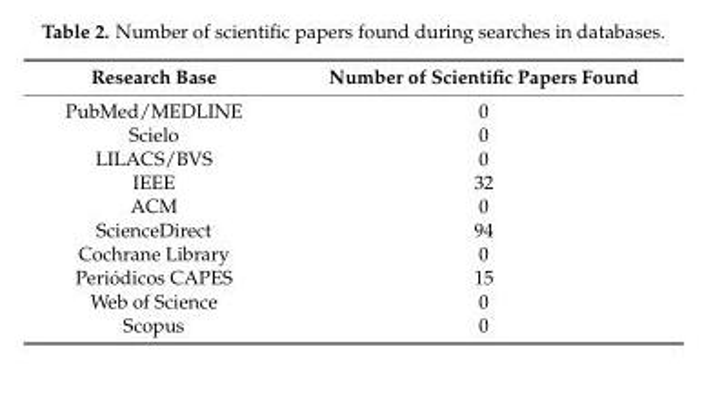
<table><thead><tr><td>Research Base</td><td>Number of Scientific Papers Found</td></tr></thead><tbody><tr><td>PubMed/MEDLINE</td><td>0</td></tr><tr><td>Scielo</td><td>0</td></tr><tr><td>LILACS/BVS</td><td>0</td></tr><tr><td>IEEE</td><td>32</td></tr><tr><td>ACM</td><td>0</td></tr><tr><td>ScienceDirect</td><td>94</td></tr><tr><td>Cochrane Library</td><td>0</td></tr><tr><td>Periódicos CAPES</td><td>15</td></tr><tr><td>Web of Science</td><td>0</td></tr><tr><td>Scopus</td><td>0</td></tr></tbody></table>